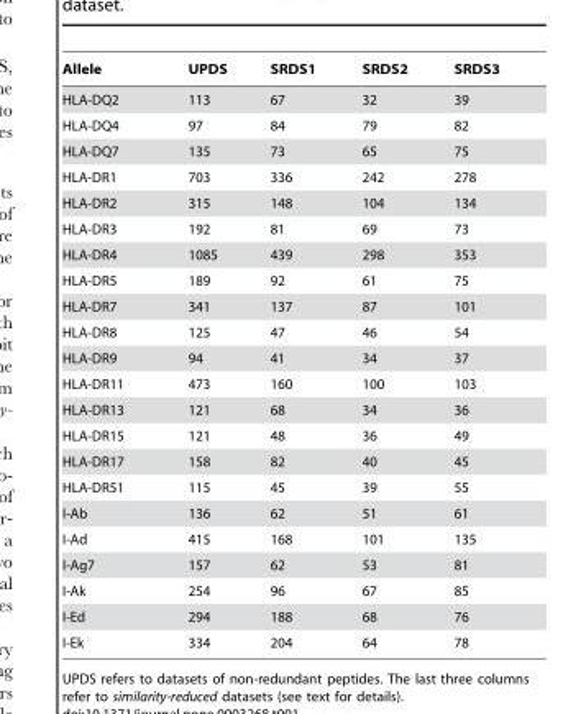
<table><thead><tr><td>Allele</td><td>UPDS</td><td>SRDS1</td><td>SRDS2</td><td>SRDS3</td></tr></thead><tbody><tr><td>HLA-DQ2</td><td>113</td><td>67</td><td>32</td><td>39</td></tr><tr><td>HLA-DQ4</td><td>97</td><td>84</td><td>79</td><td>82</td></tr><tr><td>HLA-DQ7</td><td>135</td><td>73</td><td>65</td><td>75</td></tr><tr><td>HLA-DR1</td><td>703</td><td>336</td><td>242</td><td>278</td></tr><tr><td>HLA-DR2</td><td>315</td><td>148</td><td>104</td><td>134</td></tr><tr><td>HLA-DR3</td><td>192</td><td>81</td><td>69</td><td>73</td></tr><tr><td>HLA-DR4</td><td>1085</td><td>439</td><td>298</td><td>353</td></tr><tr><td>HLA-DR5</td><td>189</td><td>92</td><td>61</td><td>75</td></tr><tr><td>HLA-DR7</td><td>341</td><td>137</td><td>87</td><td>101</td></tr><tr><td>HLA-DR8</td><td>125</td><td>47</td><td>46</td><td>54</td></tr><tr><td>HLA-DR9</td><td>94</td><td>41</td><td>34</td><td>37</td></tr><tr><td>HLA-DR11</td><td>473</td><td>160</td><td>100</td><td>103</td></tr><tr><td>HLA-DR13</td><td>121</td><td>68</td><td>34</td><td>36</td></tr><tr><td>HLA-DR15</td><td>121</td><td>48</td><td>36</td><td>49</td></tr><tr><td>HLA-DR17</td><td>158</td><td>82</td><td>40</td><td>45</td></tr><tr><td>HLA-DR51</td><td>115</td><td>45</td><td>39</td><td>55</td></tr><tr><td>I-Ab</td><td>136</td><td>62</td><td>51</td><td>61</td></tr><tr><td>I-Ad</td><td>415</td><td>168</td><td>101</td><td>135</td></tr><tr><td>I-Ag7</td><td>157</td><td>62</td><td>53</td><td>81</td></tr><tr><td>I-Ak</td><td>254</td><td>96</td><td>67</td><td>85</td></tr><tr><td>I-Ed</td><td>294</td><td>188</td><td>68</td><td>76</td></tr><tr><td>I-Ek</td><td>334</td><td>204</td><td>64</td><td>78</td></tr></tbody></table>